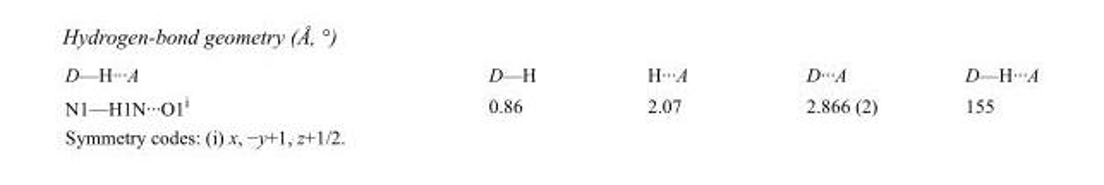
<table><tbody><tr><td>D—H···A</td><td>D—H</td><td>H···A</td><td>D···A</td><td>D—H···A</td></tr><tr><td>N1—H1N···O1<sup>i</sup></td><td>0.86</td><td>2.07</td><td>2.866 (2)</td><td>155</td></tr></tbody></table>